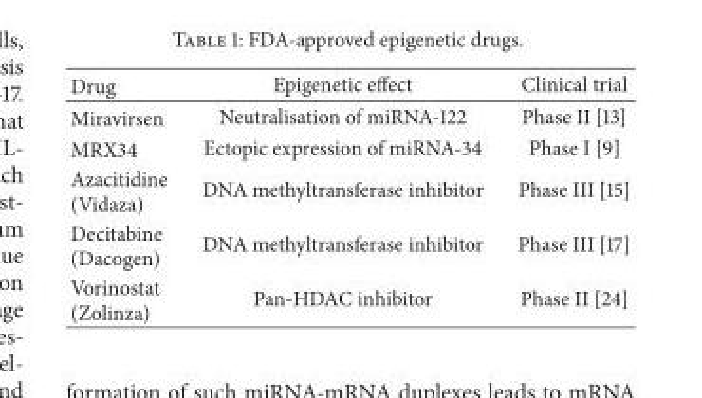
<table><thead><tr><td>Drug</td><td>Epigenetic effect</td><td>Clinical trial</td></tr></thead><tbody><tr><td>Miravirsen</td><td>Neutralisation of miRNA-122</td><td>Phase II [13]</td></tr><tr><td>MRX34</td><td>Ectopic expression of miRNA-34</td><td>Phase I [9]</td></tr><tr><td>Azacitidine (Vidaza)</td><td>DNA methyltransferase inhibitor</td><td>Phase III [15]</td></tr><tr><td>Decitabine (Dacogen)</td><td>DNA methyltransferase inhibitor</td><td>Phase III [17]</td></tr><tr><td>Vorinostat (Zolinza)</td><td>Pan-HDAC inhibitor</td><td>Phase II [24]</td></tr></tbody></table>